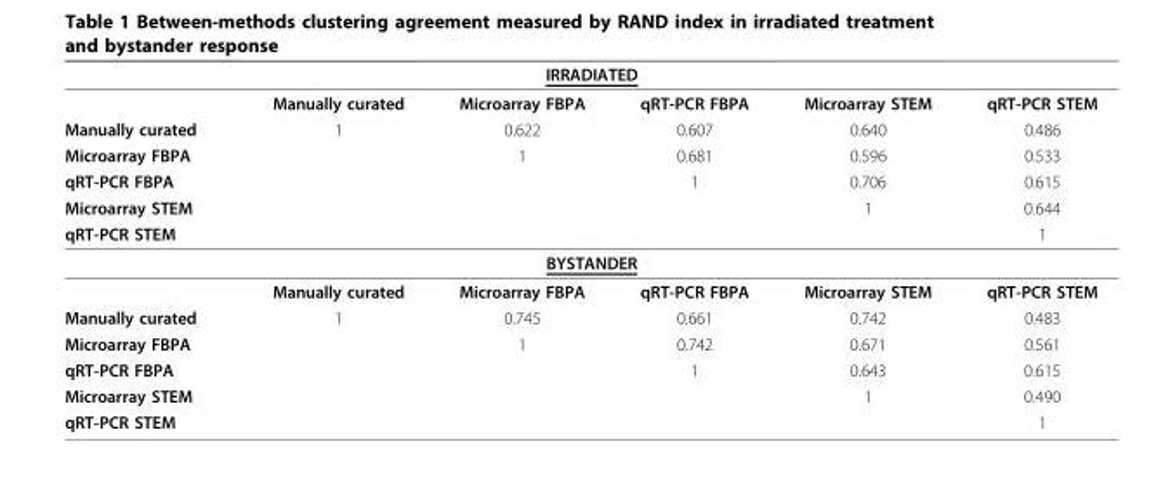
<table><thead><tr><td colspan="6">IRRADIATED</td></tr><tr><td></td><td>Manually curated</td><td>Microarray FBPA</td><td>qRT-PCR FBPA</td><td>Microarray STEM</td><td>qRT-PCR STEM</td></tr></thead><tbody><tr><td>Manually curated</td><td>1</td><td>0.622</td><td>0.607</td><td>0.640</td><td>0.486</td></tr><tr><td>Microarray FBPA</td><td></td><td>1</td><td>0.681</td><td>0.596</td><td>0.533</td></tr><tr><td>qRT-PCR FBPA</td><td></td><td></td><td>1</td><td>0.706</td><td>0.615</td></tr><tr><td>Microarray STEM</td><td></td><td></td><td></td><td>1</td><td>0.644</td></tr><tr><td>qRT-PCR STEM</td><td></td><td></td><td></td><td></td><td>1</td></tr><tr><td colspan="6">BYSTANDER</td></tr><tr><td></td><td>Manually curated</td><td>Microarray FBPA</td><td>qRT-PCR FBPA</td><td>Microarray STEM</td><td>qRT-PCR STEM</td></tr><tr><td>Manually curated</td><td>1</td><td>0.745</td><td>0.661</td><td>0.742</td><td>0.483</td></tr><tr><td>Microarray FBPA</td><td></td><td>1</td><td>0.742</td><td>0.671</td><td>0.561</td></tr><tr><td>qRT-PCR FBPA</td><td></td><td></td><td>1</td><td>0.643</td><td>0.615</td></tr><tr><td>Microarray STEM</td><td></td><td></td><td></td><td>1</td><td>0.490</td></tr><tr><td>qRT-PCR STEM</td><td></td><td></td><td></td><td></td><td>1</td></tr></tbody></table>